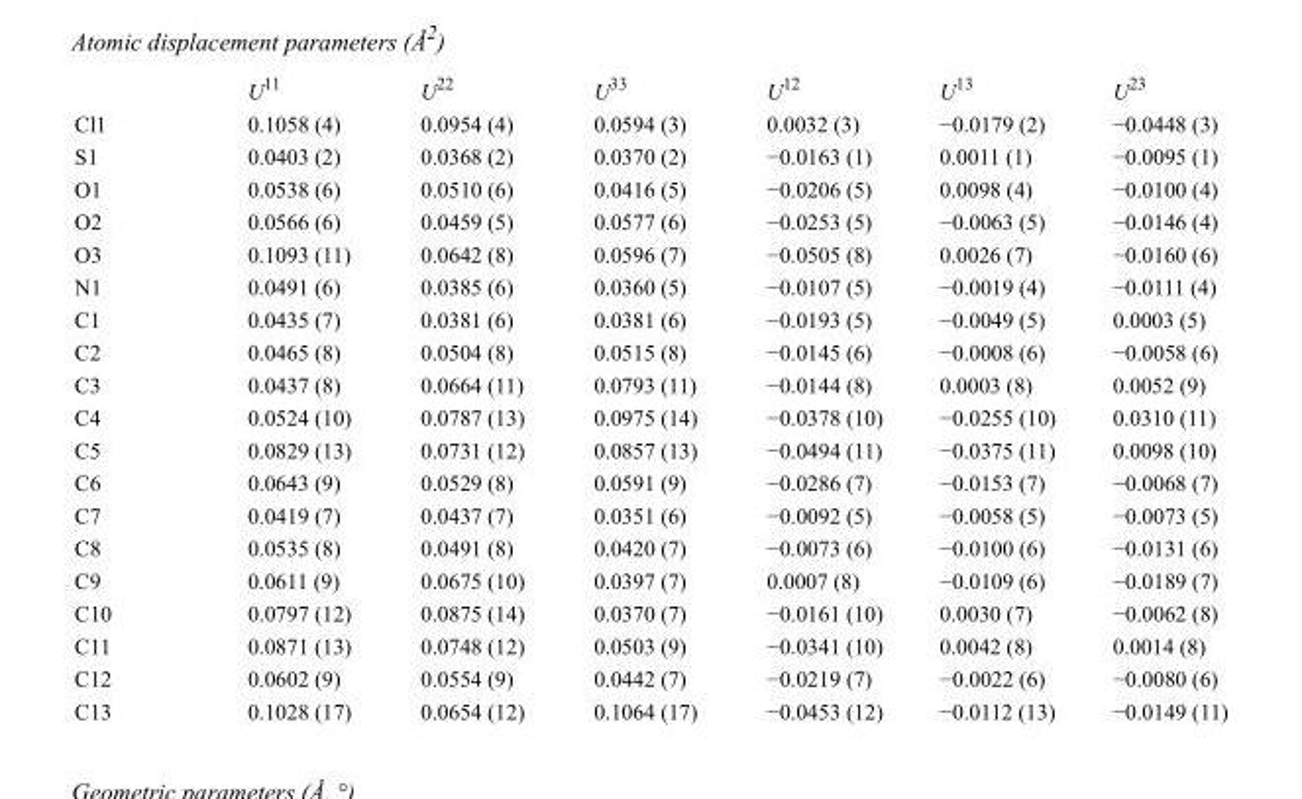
<table><thead><tr><td></td><td>U<sup>11</sup></td><td>U<sup>22</sup></td><td>U<sup>33</sup></td><td>U<sup>12</sup></td><td>U<sup>13</sup></td><td>U<sup>23</sup></td></tr></thead><tbody><tr><td>Cl1</td><td>0.1058 (4)</td><td>0.0954 (4)</td><td>0.0594 (3)</td><td>0.0032 (3)</td><td>−0.0179 (2)</td><td>−0.0448 (3)</td></tr><tr><td>S1</td><td>0.0403 (2)</td><td>0.0368 (2)</td><td>0.0370 (2)</td><td>−0.0163 (1)</td><td>0.0011 (1)</td><td>−0.0095 (1)</td></tr><tr><td>O1</td><td>0.0538 (6)</td><td>0.0510 (6)</td><td>0.0416 (5)</td><td>−0.0206 (5)</td><td>0.0098 (4)</td><td>−0.0100 (4)</td></tr><tr><td>O2</td><td>0.0566 (6)</td><td>0.0459 (5)</td><td>0.0577 (6)</td><td>−0.0253 (5)</td><td>−0.0063 (5)</td><td>−0.0146 (4)</td></tr><tr><td>O3</td><td>0.1093 (11)</td><td>0.0642 (8)</td><td>0.0596 (7)</td><td>−0.0505 (8)</td><td>0.0026 (7)</td><td>−0.0160 (6)</td></tr><tr><td>N1</td><td>0.0491 (6)</td><td>0.0385 (6)</td><td>0.0360 (5)</td><td>−0.0107 (5)</td><td>−0.0019 (4)</td><td>−0.0111 (4)</td></tr><tr><td>C1</td><td>0.0435 (7)</td><td>0.0381 (6)</td><td>0.0381 (6)</td><td>−0.0193 (5)</td><td>−0.0049 (5)</td><td>0.0003 (5)</td></tr><tr><td>C2</td><td>0.0465 (8)</td><td>0.0504 (8)</td><td>0.0515 (8)</td><td>−0.0145 (6)</td><td>−0.0008 (6)</td><td>−0.0058 (6)</td></tr><tr><td>C3</td><td>0.0437 (8)</td><td>0.0664 (11)</td><td>0.0793 (11)</td><td>−0.0144 (8)</td><td>0.0003 (8)</td><td>0.0052 (9)</td></tr><tr><td>C4</td><td>0.0524 (10)</td><td>0.0787 (13)</td><td>0.0975 (14)</td><td>−0.0378 (10)</td><td>−0.0255 (10)</td><td>0.0310 (11)</td></tr><tr><td>C5</td><td>0.0829 (13)</td><td>0.0731 (12)</td><td>0.0857 (13)</td><td>−0.0494 (11)</td><td>−0.0375 (11)</td><td>0.0098 (10)</td></tr><tr><td>C6</td><td>0.0643 (9)</td><td>0.0529 (8)</td><td>0.0591 (9)</td><td>−0.0286 (7)</td><td>−0.0153 (7)</td><td>−0.0068 (7)</td></tr><tr><td>C7</td><td>0.0419 (7)</td><td>0.0437 (7)</td><td>0.0351 (6)</td><td>−0.0092 (5)</td><td>−0.0058 (5)</td><td>−0.0073 (5)</td></tr><tr><td>C8</td><td>0.0535 (8)</td><td>0.0491 (8)</td><td>0.0420 (7)</td><td>−0.0073 (6)</td><td>−0.0100 (6)</td><td>−0.0131 (6)</td></tr><tr><td>C9</td><td>0.0611 (9)</td><td>0.0675 (10)</td><td>0.0397 (7)</td><td>0.0007 (8)</td><td>−0.0109 (6)</td><td>−0.0189 (7)</td></tr><tr><td>C10</td><td>0.0797 (12)</td><td>0.0875 (14)</td><td>0.0370 (7)</td><td>−0.0161 (10)</td><td>0.0030 (7)</td><td>−0.0062 (8)</td></tr><tr><td>C11</td><td>0.0871 (13)</td><td>0.0748 (12)</td><td>0.0503 (9)</td><td>−0.0341 (10)</td><td>0.0042 (8)</td><td>0.0014 (8)</td></tr><tr><td>C12</td><td>0.0602 (9)</td><td>0.0554 (9)</td><td>0.0442 (7)</td><td>−0.0219 (7)</td><td>−0.0022 (6)</td><td>−0.0080 (6)</td></tr><tr><td>C13</td><td>0.1028 (17)</td><td>0.0654 (12)</td><td>0.1064 (17)</td><td>−0.0453 (12)</td><td>−0.0112 (13)</td><td>−0.0149 (11)</td></tr></tbody></table>